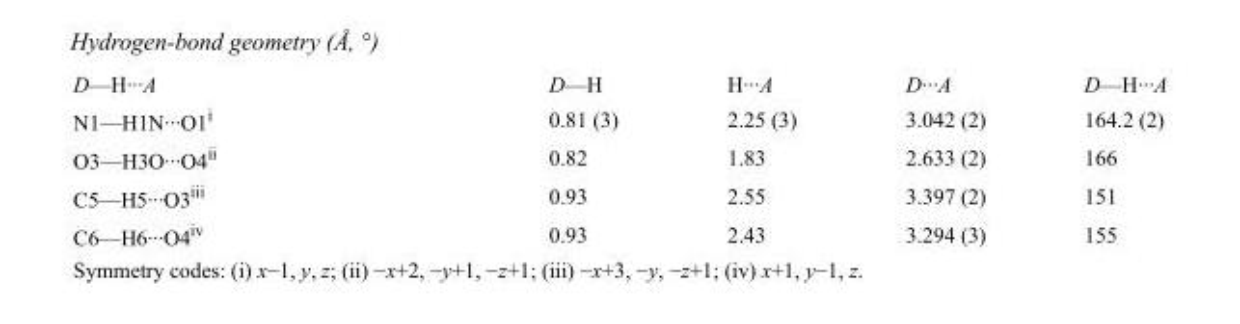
<table><tbody><tr><td>D—H···A</td><td>D—H</td><td>H···A</td><td>D···A</td><td>D—H···A</td></tr><tr><td>N1—H1N···O1<sup>i</sup></td><td>0.81 (3)</td><td>2.25 (3)</td><td>3.042 (2)</td><td>164.2 (2)</td></tr><tr><td>O3—H3O···O4<sup>ii</sup></td><td>0.82</td><td>1.83</td><td>2.633 (2)</td><td>166</td></tr><tr><td>C5—H5···O3<sup>iii</sup></td><td>0.93</td><td>2.55</td><td>3.397 (2)</td><td>151</td></tr><tr><td>C6—H6···O4<sup>iv</sup></td><td>0.93</td><td>2.43</td><td>3.294 (3)</td><td>155</td></tr></tbody></table>